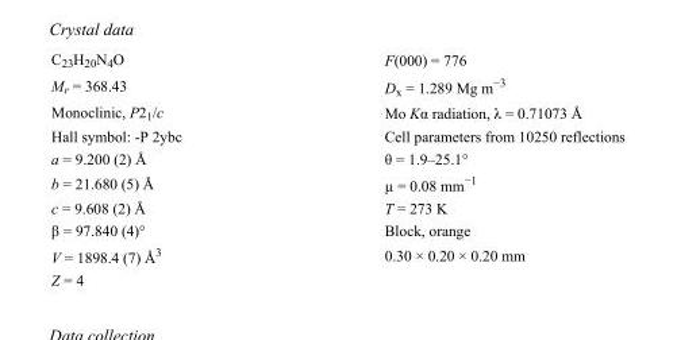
<table><tbody><tr><td>C<sub>23</sub>H<sub>20</sub>N<sub>4</sub>O</td><td>F(000) = 776</td></tr><tr><td>M<sub>r</sub> = 368.43</td><td>D<sub>x</sub> = 1.289 Mg m<sup>−3</sup></td></tr><tr><td>Monoclinic, P2<sub>1</sub>/c</td><td>Mo Kα radiation, λ = 0.71073 Å</td></tr><tr><td>Hall symbol: -P 2ybc</td><td>Cell parameters from 10250 reflections</td></tr><tr><td>a = 9.200 (2) Å</td><td>θ = 1.9–25.1°</td></tr><tr><td>b = 21.680 (5) Å</td><td>µ = 0.08 mm<sup>−1</sup></td></tr><tr><td>c = 9.608 (2) Å</td><td>T = 273 K</td></tr><tr><td>β = 97.840 (4)°</td><td>Block, orange</td></tr><tr><td>V = 1898.4 (7) Å<sup>3</sup></td><td>0.30 × 0.20 × 0.20 mm</td></tr><tr><td>Z = 4</td><td></td></tr></tbody></table>